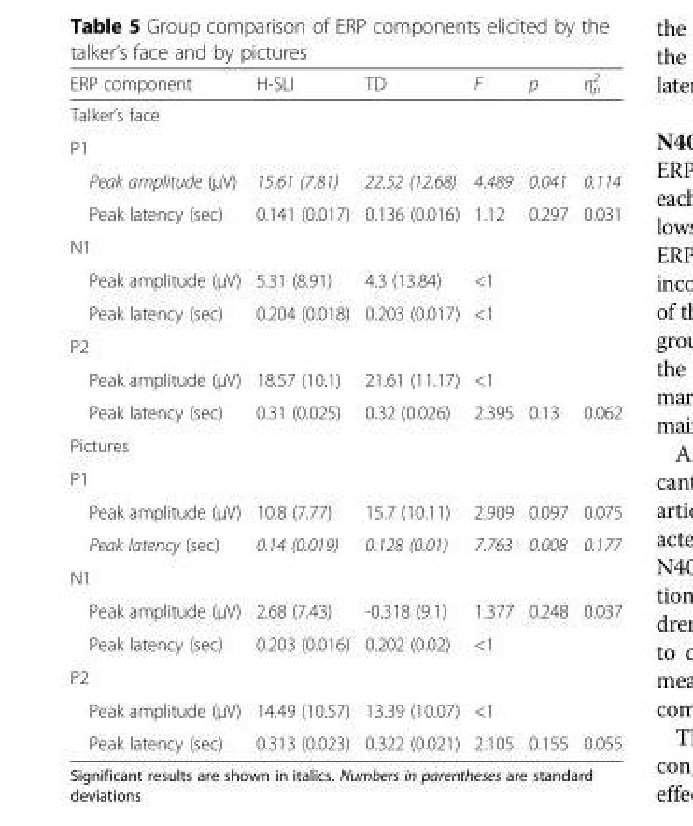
<table><thead><tr><td>ERP component</td><td>H-SLI</td><td>TD</td><td>F</td><td>p</td><td>η<sub>p</sub> <sup>2</sup></td></tr></thead><tbody><tr><td colspan="6">Talker’s face</td></tr><tr><td colspan="6">P1</td></tr><tr><td>Peak amplitude (μV)</td><td>15.61 (7.81)</td><td>22.52 (12.68)</td><td>4.489</td><td>0.041</td><td>0.114</td></tr><tr><td>Peak latency (sec)</td><td>0.141 (0.017)</td><td>0.136 (0.016)</td><td>1.12</td><td>0.297</td><td>0.031</td></tr><tr><td colspan="6">N1</td></tr><tr><td>Peak amplitude (μV)</td><td>5.31 (8.91)</td><td>4.3 (13.84)</td><td>&lt;1</td><td></td><td></td></tr><tr><td>Peak latency (sec)</td><td>0.204 (0.018)</td><td>0.203 (0.017)</td><td>&lt;1</td><td></td><td></td></tr><tr><td colspan="6">P2</td></tr><tr><td>Peak amplitude (μV)</td><td>18.57 (10.1)</td><td>21.61 (11.17)</td><td>&lt;1</td><td></td><td></td></tr><tr><td>Peak latency (sec)</td><td>0.31 (0.025)</td><td>0.32 (0.026)</td><td>2.395</td><td>0.13</td><td>0.062</td></tr><tr><td colspan="6">Pictures</td></tr><tr><td colspan="6">P1</td></tr><tr><td>Peak amplitude (μV)</td><td>10.8 (7.77)</td><td>15.7 (10.11)</td><td>2.909</td><td>0.097</td><td>0.075</td></tr><tr><td>Peak latency (sec)</td><td>0.14 (0.019)</td><td>0.128 (0.01)</td><td>7.763</td><td>0.008</td><td>0.177</td></tr><tr><td colspan="6">N1</td></tr><tr><td>Peak amplitude (μV)</td><td>2.68 (7.43)</td><td>-0.318 (9.1)</td><td>1.377</td><td>0.248</td><td>0.037</td></tr><tr><td>Peak latency (sec)</td><td>0.203 (0.016)</td><td>0.202 (0.02)</td><td>&lt;1</td><td></td><td></td></tr><tr><td colspan="6">P2</td></tr><tr><td>Peak amplitude (μV)</td><td>14.49 (10.57)</td><td>13.39 (10.07)</td><td>&lt;1</td><td></td><td></td></tr><tr><td>Peak latency (sec)</td><td>0.313 (0.023)</td><td>0.322 (0.021)</td><td>2.105</td><td>0.155</td><td>0.055</td></tr></tbody></table>